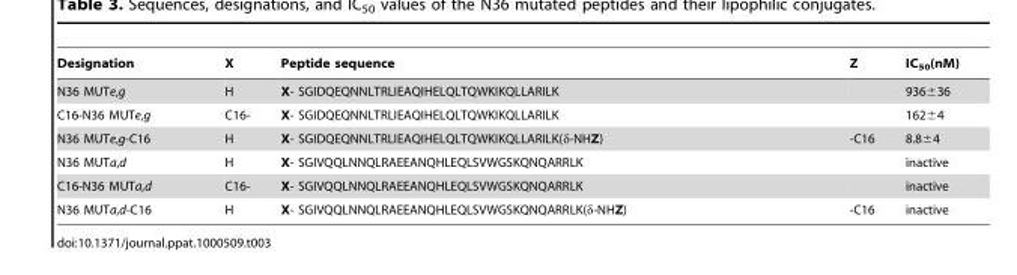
<table><thead><tr><td>Designation</td><td>X</td><td>Peptide sequence</td><td>Z</td><td>IC<sub>50</sub>(nM)</td></tr></thead><tbody><tr><td>N36 MUTe,g</td><td>H</td><td>X- SGIDQEQNNLTRLIEAQIHELQLTQWKIKQLLARILK</td><td></td><td>936±36</td></tr><tr><td>C16-N36 MUTe,g</td><td>C16-</td><td>X- SGIDQEQNNLTRLIEAQIHELQLTQWKIKQLLARILK</td><td></td><td>162±4</td></tr><tr><td>N36 MUTe,g-C16</td><td>H</td><td>X- SGIDQEQNNLTRLIEAQIHELQLTQWKIKQLLARILK(δ-NHZ)</td><td>-C16</td><td>8.8±4</td></tr><tr><td>N36 MUTa,d</td><td>H</td><td>X- SGIVQQLNNQLRAEEANQHLEQLSVWGSKQNQARRLK</td><td></td><td>inactive</td></tr><tr><td>C16-N36 MUTa,d</td><td>C16-</td><td>X- SGIVQQLNNQLRAEEANQHLEQLSVWGSKQNQARRLK</td><td></td><td>inactive</td></tr><tr><td>N36 MUTa,d-C16</td><td>H</td><td>X- SGIVQQLNNQLRAEEANQHLEQLSVWGSKQNQARRLK(δ-NHZ)</td><td>-C16</td><td>inactive</td></tr></tbody></table>